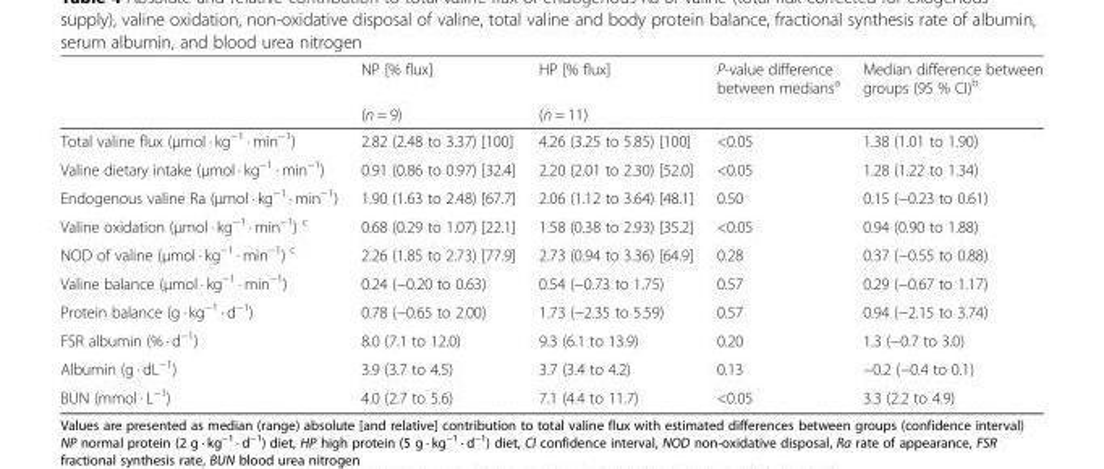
<table><thead><tr><td rowspan="2"></td><td rowspan="2">NP [% flux] (n = 9)</td><td rowspan="2">HP [% flux] (n = 11)</td><td rowspan="2">P-value difference between medians<sup>a</sup></td><td rowspan="2">Median difference between groups (95 % CI)<sup>b</sup></td></tr><tr></tr></thead><tbody><tr><td>Total valine flux (μmol · kg<sup>−1</sup> · min<sup>−1</sup>)</td><td>2.82 (2.48 to 3.37) [100]</td><td>4.26 (3.25 to 5.85) [100]</td><td>&lt;0.05</td><td>1.38 (1.01 to 1.90)</td></tr><tr><td>Valine dietary intake (μmol · kg<sup>−1</sup> · min<sup>−1</sup>)</td><td>0.91 (0.86 to 0.97) [32.4]</td><td>2.20 (2.01 to 2.30) [52.0]</td><td>&lt;0.05</td><td>1.28 (1.22 to 1.34)</td></tr><tr><td>Endogenous valine Ra (μmol · kg<sup>−1</sup> · min<sup>−1</sup>)</td><td>1.90 (1.63 to 2.48) [67.7]</td><td>2.06 (1.12 to 3.64) [48.1]</td><td>0.50</td><td>0.15 (−0.23 to 0.61)</td></tr><tr><td>Valine oxidation (μmol · kg<sup>−1</sup> · min<sup>−1</sup>) <sup>c</sup></td><td>0.68 (0.29 to 1.07) [22.1]</td><td>1.58 (0.38 to 2.93) [35.2]</td><td>&lt;0.05</td><td>0.94 (0.90 to 1.88)</td></tr><tr><td>NOD of valine (μmol · kg<sup>−1</sup> · min<sup>−1</sup>) <sup>c</sup></td><td>2.26 (1.85 to 2.73) [77.9]</td><td>2.73 (0.94 to 3.36) [64.9]</td><td>0.28</td><td>0.37 (−0.55 to 0.88)</td></tr><tr><td>Valine balance (μmol · kg<sup>−1</sup> · min<sup>−1</sup>)</td><td>0.24 (−0.20 to 0.63)</td><td>0.54 (−0.73 to 1.75)</td><td>0.57</td><td>0.29 (−0.67 to 1.17)</td></tr><tr><td>Protein balance (g · kg<sup>−1</sup> · d<sup>−1</sup>)</td><td>0.78 (−0.65 to 2.00)</td><td>1.73 (−2.35 to 5.59)</td><td>0.57</td><td>0.94 (−2.15 to 3.74)</td></tr><tr><td>FSR albumin (% · d<sup>−1</sup>)</td><td>8.0 (7.1 to 12.0)</td><td>9.3 (6.1 to 13.9)</td><td>0.20</td><td>1.3 (−0.7 to 3.0)</td></tr><tr><td>Albumin (g · dL<sup>−1</sup>)</td><td>3.9 (3.7 to 4.5)</td><td>3.7 (3.4 to 4.2)</td><td>0.13</td><td>−0.2 (−0.4 to 0.1)</td></tr><tr><td>BUN (mmol · L<sup>−1</sup>)</td><td>4.0 (2.7 to 5.6)</td><td>7.1 (4.4 to 11.7)</td><td>&lt;0.05</td><td>3.3 (2.2 to 4.9)</td></tr></tbody></table>